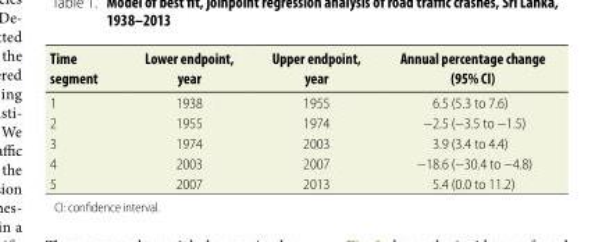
<table><thead><tr><td>Time segment</td><td>Lower endpoint, year</td><td>Upper endpoint, year</td><td>Annual percentage change (95% CI)</td></tr></thead><tbody><tr><td>1</td><td>1938</td><td>1955</td><td>6.5 (5.3 to 7.6)</td></tr><tr><td>2</td><td>1955</td><td>1974</td><td>−2.5 (−3.5 to −1.5)</td></tr><tr><td>3</td><td>1974</td><td>2003</td><td>3.9 (3.4 to 4.4)</td></tr><tr><td>4</td><td>2003</td><td>2007</td><td>−18.6 (−30.4 to −4.8)</td></tr><tr><td>5</td><td>2007</td><td>2013</td><td>5.4 (0.0 to 11.2)</td></tr></tbody></table>